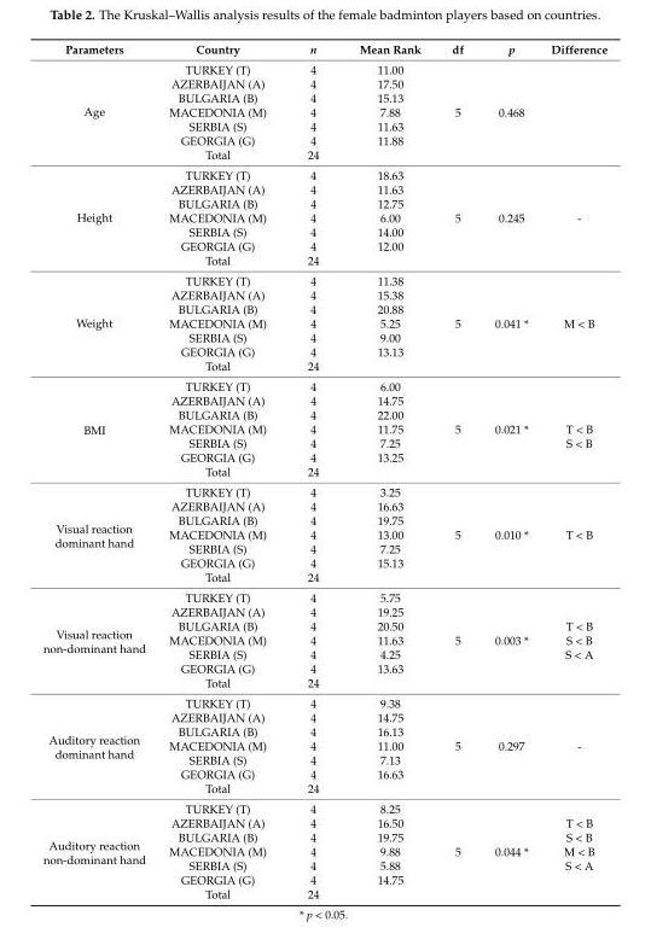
<table><thead><tr><td>Parameters</td><td>Country</td><td>n</td><td>Mean Rank</td><td>df</td><td>p</td><td>Difference</td></tr></thead><tbody><tr><td rowspan="7">Age</td><td>TURKEY (T)</td><td>4</td><td>11.00</td><td></td><td></td><td></td></tr><tr><td>AZERBAIJAN (A)</td><td>4</td><td>17.50</td><td></td><td></td><td></td></tr><tr><td>BULGARIA (B)</td><td>4</td><td>15.13</td><td></td><td></td><td></td></tr><tr><td>MACEDONIA (M)</td><td>4</td><td>7.88</td><td>5</td><td>0.468</td><td></td></tr><tr><td>SERBIA (S)</td><td>4</td><td>11.63</td><td></td><td></td><td></td></tr><tr><td>GEORGIA (G)</td><td>4</td><td>11.88</td><td></td><td></td><td></td></tr><tr><td>Total</td><td>24</td><td></td><td></td><td></td><td></td></tr><tr><td rowspan="7">Height</td><td>TURKEY (T)</td><td>4</td><td>18.63</td><td></td><td></td><td></td></tr><tr><td>AZERBAIJAN (A)</td><td>4</td><td>11.63</td><td></td><td></td><td></td></tr><tr><td>BULGARIA (B)</td><td>4</td><td>12.75</td><td></td><td></td><td></td></tr><tr><td>MACEDONIA (M)</td><td>4</td><td>6.00</td><td>5</td><td>0.245</td><td>-</td></tr><tr><td>SERBIA (S)</td><td>4</td><td>14.00</td><td></td><td></td><td></td></tr><tr><td>GEORGIA (G)</td><td>4</td><td>12.00</td><td></td><td></td><td></td></tr><tr><td>Total</td><td>24</td><td></td><td></td><td></td><td></td></tr><tr><td rowspan="7">Weight</td><td>TURKEY (T)</td><td>4</td><td>11.38</td><td></td><td></td><td></td></tr><tr><td>AZERBAIJAN (A)</td><td>4</td><td>15.38</td><td></td><td></td><td></td></tr><tr><td>BULGARIA (B)</td><td>4</td><td>20.88</td><td></td><td></td><td></td></tr><tr><td>MACEDONIA (M)</td><td>4</td><td>5.25</td><td>5</td><td>0.041 *</td><td>M &lt; B</td></tr><tr><td>SERBIA (S)</td><td>4</td><td>9.00</td><td></td><td></td><td></td></tr><tr><td>GEORGIA (G)</td><td>4</td><td>13.13</td><td></td><td></td><td></td></tr><tr><td>Total</td><td>24</td><td></td><td></td><td></td><td></td></tr><tr><td rowspan="7">BMI</td><td>TURKEY (T)</td><td>4</td><td>6.00</td><td></td><td></td><td></td></tr><tr><td>AZERBAIJAN (A)</td><td>4</td><td>14.75</td><td></td><td></td><td></td></tr><tr><td>BULGARIA (B)</td><td>4</td><td>22.00</td><td></td><td></td><td></td></tr><tr><td>MACEDONIA (M)</td><td>4</td><td>11.75</td><td>5</td><td>0.021 *</td><td>T &lt; B</td></tr><tr><td>SERBIA (S)</td><td>4</td><td>7.25</td><td></td><td></td><td>S &lt; B</td></tr><tr><td>GEORGIA (G)</td><td>4</td><td>13.25</td><td></td><td></td><td></td></tr><tr><td>Total</td><td>24</td><td></td><td></td><td></td><td></td></tr><tr><td rowspan="7">Visual reaction dominant hand</td><td>TURKEY (T)</td><td>4</td><td>3.25</td><td></td><td></td><td></td></tr><tr><td>AZERBAIJAN (A)</td><td>4</td><td>16.63</td><td></td><td></td><td></td></tr><tr><td>BULGARIA (B)</td><td>4</td><td>19.75</td><td></td><td></td><td></td></tr><tr><td>MACEDONIA (M)</td><td>4</td><td>13.00</td><td>5</td><td>0.010 *</td><td>T &lt; B</td></tr><tr><td>SERBIA (S)</td><td>4</td><td>7.25</td><td></td><td></td><td></td></tr><tr><td>GEORGIA (G)</td><td>4</td><td>15.13</td><td></td><td></td><td></td></tr><tr><td>Total</td><td>24</td><td></td><td></td><td></td><td></td></tr><tr><td rowspan="7">Visual reaction non-dominant hand</td><td>TURKEY (T)</td><td>4</td><td>5.75</td><td></td><td></td><td></td></tr><tr><td>AZERBAIJAN (A)</td><td>4</td><td>19.25</td><td></td><td></td><td></td></tr><tr><td>BULGARIA (B)</td><td>4</td><td>20.50</td><td></td><td></td><td>T &lt; B</td></tr><tr><td>MACEDONIA (M)</td><td>4</td><td>11.63</td><td>5</td><td>0.003 *</td><td>S &lt; B</td></tr><tr><td>SERBIA (S)</td><td>4</td><td>4.25</td><td></td><td></td><td>S &lt; A</td></tr><tr><td>GEORGIA (G)</td><td>4</td><td>13.63</td><td></td><td></td><td></td></tr><tr><td>Total</td><td>24</td><td></td><td></td><td></td><td></td></tr><tr><td rowspan="7">Auditory reaction dominant hand</td><td>TURKEY (T)</td><td>4</td><td>9.38</td><td></td><td></td><td></td></tr><tr><td>AZERBAIJAN (A)</td><td>4</td><td>14.75</td><td></td><td></td><td></td></tr><tr><td>BULGARIA (B)</td><td>4</td><td>16.13</td><td></td><td></td><td></td></tr><tr><td>MACEDONIA (M)</td><td>4</td><td>11.00</td><td>5</td><td>0.297</td><td>-</td></tr><tr><td>SERBIA (S)</td><td>4</td><td>7.13</td><td></td><td></td><td></td></tr><tr><td>GEORGIA (G)</td><td>4</td><td>16.63</td><td></td><td></td><td></td></tr><tr><td>Total</td><td>24</td><td></td><td></td><td></td><td></td></tr><tr><td rowspan="7">Auditory reaction non-dominant hand</td><td>TURKEY (T)</td><td>4</td><td>8.25</td><td></td><td></td><td></td></tr><tr><td>AZERBAIJAN (A)</td><td>4</td><td>16.50</td><td></td><td></td><td>T &lt; B</td></tr><tr><td>BULGARIA (B)</td><td>4</td><td>19.75</td><td></td><td></td><td>S &lt; B</td></tr><tr><td>MACEDONIA (M)</td><td>4</td><td>9.88</td><td>5</td><td>0.044 *</td><td>M &lt; B</td></tr><tr><td>SERBIA (S)</td><td>4</td><td>5.88</td><td></td><td></td><td>S &lt; A</td></tr><tr><td>GEORGIA (G)</td><td>4</td><td>14.75</td><td></td><td></td><td></td></tr><tr><td>Total</td><td>24</td><td></td><td></td><td></td><td></td></tr></tbody></table>